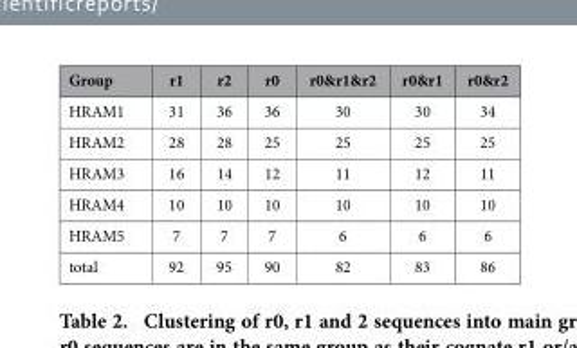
<table><thead><tr><td>Group</td><td>r1</td><td>r2</td><td>r0</td><td>r0&amp;r1&amp;r2</td><td>r0&amp;r1</td><td>r0&amp;r2</td></tr></thead><tbody><tr><td>HRAM1</td><td>31</td><td>36</td><td>36</td><td>30</td><td>30</td><td>34</td></tr><tr><td>HRAM2</td><td>28</td><td>28</td><td>25</td><td>25</td><td>25</td><td>25</td></tr><tr><td>HRAM3</td><td>16</td><td>14</td><td>12</td><td>11</td><td>12</td><td>11</td></tr><tr><td>HRAM4</td><td>10</td><td>10</td><td>10</td><td>10</td><td>10</td><td>10</td></tr><tr><td>HRAM5</td><td>7</td><td>7</td><td>7</td><td>6</td><td>6</td><td>6</td></tr><tr><td>total</td><td>92</td><td>95</td><td>90</td><td>82</td><td>83</td><td>86</td></tr></tbody></table>